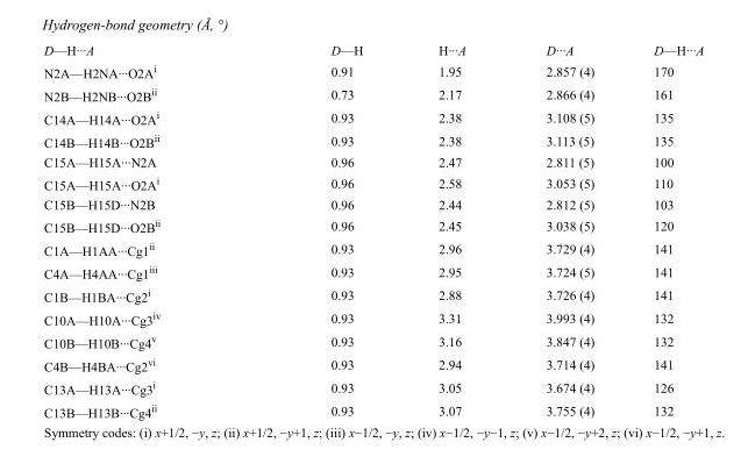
<table><tbody><tr><td>D—H···A</td><td>D—H</td><td>H···A</td><td>D···A</td><td>D—H···A</td></tr><tr><td>N2A—H2NA···O2A<sup>i</sup></td><td>0.91</td><td>1.95</td><td>2.857 (4)</td><td>170</td></tr><tr><td>N2B—H2NB···O2B<sup>ii</sup></td><td>0.73</td><td>2.17</td><td>2.866 (4)</td><td>161</td></tr><tr><td>C14A—H14A···O2A<sup>i</sup></td><td>0.93</td><td>2.38</td><td>3.108 (5)</td><td>135</td></tr><tr><td>C14B—H14B···O2B<sup>ii</sup></td><td>0.93</td><td>2.38</td><td>3.113 (5)</td><td>135</td></tr><tr><td>C15A—H15A···N2A</td><td>0.96</td><td>2.47</td><td>2.811 (5)</td><td>100</td></tr><tr><td>C15A—H15A···O2A<sup>i</sup></td><td>0.96</td><td>2.58</td><td>3.053 (5)</td><td>110</td></tr><tr><td>C15B—H15D···N2B</td><td>0.96</td><td>2.44</td><td>2.812 (5)</td><td>103</td></tr><tr><td>C15B—H15D···O2B<sup>ii</sup></td><td>0.96</td><td>2.45</td><td>3.038 (5)</td><td>120</td></tr><tr><td>C1A—H1AA···Cg1<sup>ii</sup></td><td>0.93</td><td>2.96</td><td>3.729 (4)</td><td>141</td></tr><tr><td>C4A—H4AA···Cg1<sup>iii</sup></td><td>0.93</td><td>2.95</td><td>3.724 (5)</td><td>141</td></tr><tr><td>C1B—H1BA···Cg2<sup>i</sup></td><td>0.93</td><td>2.88</td><td>3.726 (4)</td><td>141</td></tr><tr><td>C10A—H10A···Cg3<sup>iv</sup></td><td>0.93</td><td>3.31</td><td>3.993 (4)</td><td>132</td></tr><tr><td>C10B—H10B···Cg4<sup>v</sup></td><td>0.93</td><td>3.16</td><td>3.847 (4)</td><td>132</td></tr><tr><td>C4B—H4BA···Cg2<sup>vi</sup></td><td>0.93</td><td>2.94</td><td>3.714 (4)</td><td>141</td></tr><tr><td>C13A—H13A···Cg3<sup>i</sup></td><td>0.93</td><td>3.05</td><td>3.674 (4)</td><td>126</td></tr><tr><td>C13B—H13B···Cg4<sup>ii</sup></td><td>0.93</td><td>3.07</td><td>3.755 (4)</td><td>132</td></tr></tbody></table>